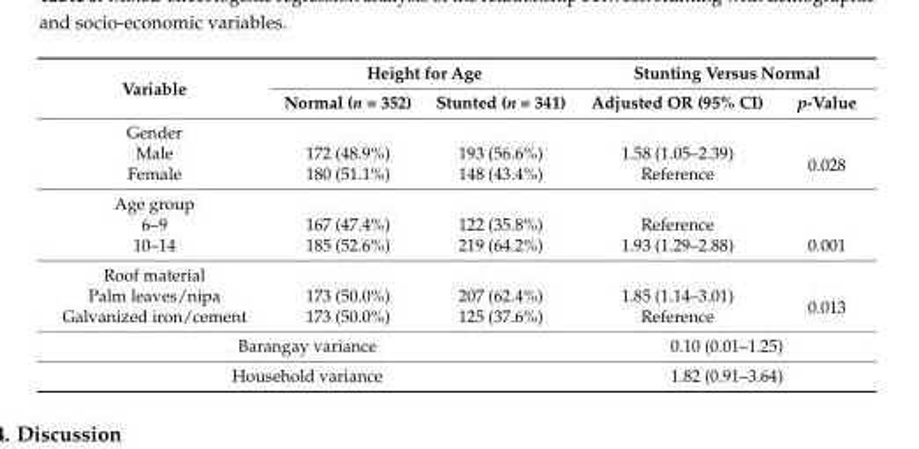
<table><thead><tr><td rowspan="2">Variable</td><td colspan="2">Height for Age</td><td colspan="2">Stunting Versus Normal</td></tr><tr><td>Normal (n = 352)</td><td>Stunted (n = 341)</td><td>Adjusted OR (95% CI)</td><td>p-Value</td></tr></thead><tbody><tr><td colspan="5">Gender</td></tr><tr><td>Male</td><td>172 (48.9%)</td><td>193 (56.6%)</td><td>1.58 (1.05–2.39)</td><td rowspan="2">0.028</td></tr><tr><td>Female</td><td>180 (51.1%)</td><td>148 (43.4%)</td><td>Reference</td></tr><tr><td colspan="5">Age group</td></tr><tr><td>6–9</td><td>167 (47.4%)</td><td>122 (35.8%)</td><td>Reference</td><td></td></tr><tr><td>10–14</td><td>185 (52.6%)</td><td>219 (64.2%)</td><td>1.93 (1.29–2.88)</td><td>0.001</td></tr><tr><td colspan="5">Roof material</td></tr><tr><td>Palm leaves/nipa</td><td>173 (50.0%)</td><td>207 (62.4%)</td><td>1.85 (1.14–3.01)</td><td rowspan="2">0.013</td></tr><tr><td>Galvanized iron/cement</td><td>173 (50.0%)</td><td>125 (37.6%)</td><td>Reference</td></tr><tr><td colspan="3">Barangay variance</td><td colspan="2">0.10 (0.01–1.25)</td></tr><tr><td colspan="3">Household variance</td><td colspan="2">1.82 (0.91–3.64)</td></tr></tbody></table>